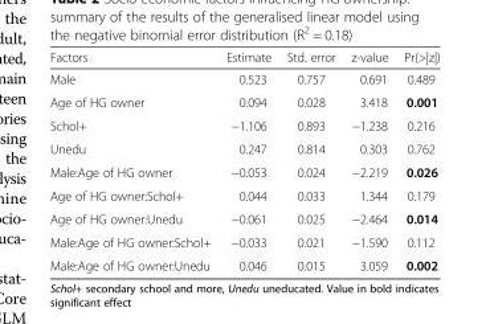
<table><thead><tr><td>Factors</td><td>Estimate</td><td>Std. error</td><td>z-value</td><td>Pr(&gt;|z|)</td></tr></thead><tbody><tr><td>Male</td><td>0.523</td><td>0.757</td><td>0.691</td><td>0.489</td></tr><tr><td>Age of HG owner</td><td>0.094</td><td>0.028</td><td>3.418</td><td>0.001</td></tr><tr><td>Schol+</td><td>−1.106</td><td>0.893</td><td>−1.238</td><td>0.216</td></tr><tr><td>Unedu</td><td>0.247</td><td>0.814</td><td>0.303</td><td>0.762</td></tr><tr><td>Male:Age of HG owner</td><td>−0.053</td><td>0.024</td><td>−2.219</td><td>0.026</td></tr><tr><td>Age of HG owner:Schol+</td><td>0.044</td><td>0.033</td><td>1.344</td><td>0.179</td></tr><tr><td>Age of HG owner:Unedu</td><td>−0.061</td><td>0.025</td><td>−2.464</td><td>0.014</td></tr><tr><td>Male:Age of HG owner:Schol+</td><td>−0.033</td><td>0.021</td><td>−1.590</td><td>0.112</td></tr><tr><td>Male:Age of HG owner:Unedu</td><td>0.046</td><td>0.015</td><td>3.059</td><td>0.002</td></tr></tbody></table>